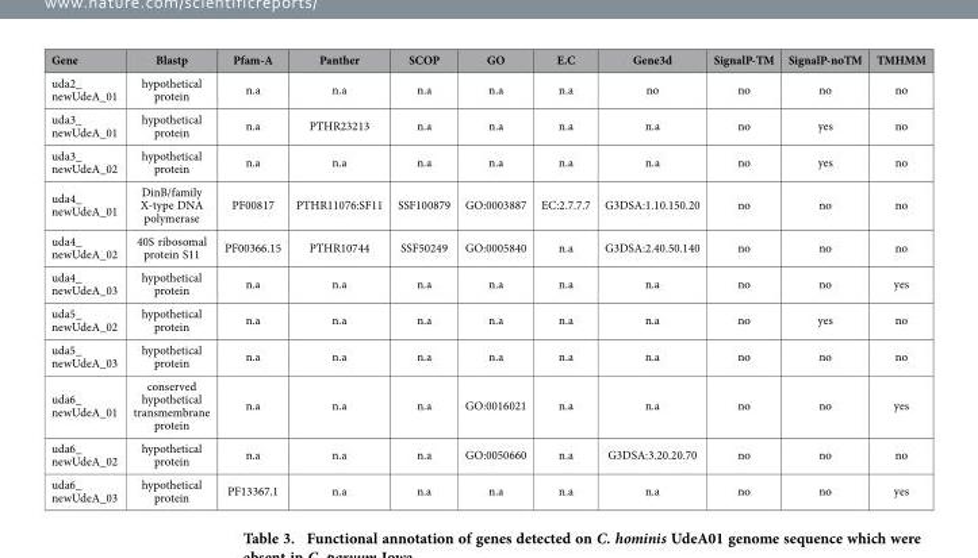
<table><thead><tr><td>Gene</td><td>Blastp</td><td>Pfam-A</td><td>Panther</td><td>SCOP</td><td>GO</td><td>E.C</td><td>Gene3d</td><td>SignalP-TM</td><td>SignalP-noTM</td><td>TMHMM</td></tr></thead><tbody><tr><td>uda2_ newUdeA_01</td><td>hypothetical protein</td><td>n.a</td><td>n.a</td><td>n.a</td><td>n.a</td><td>n.a</td><td>no</td><td>no</td><td>no</td><td>no</td></tr><tr><td>uda3_ newUdeA_01</td><td>hypothetical protein</td><td>n.a</td><td>PTHR23213</td><td>n.a</td><td>n.a</td><td>n.a</td><td>n.a</td><td>no</td><td>yes</td><td>no</td></tr><tr><td>uda3_ newUdeA_02</td><td>hypothetical protein</td><td>n.a</td><td>n.a</td><td>n.a</td><td>n.a</td><td>n.a</td><td>n.a</td><td>no</td><td>yes</td><td>no</td></tr><tr><td>uda4_ newUdeA_01</td><td>DinB/family X-type DNA polymerase</td><td>PF00817</td><td>PTHR11076:SF11</td><td>SSF100879</td><td>GO:0003887</td><td>EC:2.7.7.7</td><td>G3DSA:1.10.150.20</td><td>no</td><td>no</td><td>no</td></tr><tr><td>uda4_ newUdeA_02</td><td>40S ribosomal protein S11</td><td>PF00366.15</td><td>PTHR10744</td><td>SSF50249</td><td>GO:0005840</td><td>n.a</td><td>G3DSA:2.40.50.140</td><td>no</td><td>no</td><td>no</td></tr><tr><td>uda4_ newUdeA_03</td><td>hypothetical protein</td><td>n.a</td><td>n.a</td><td>n.a</td><td>n.a</td><td>n.a</td><td>n.a</td><td>no</td><td>no</td><td>yes</td></tr><tr><td>uda5_ newUdeA_02</td><td>hypothetical protein</td><td>n.a</td><td>n.a</td><td>n.a</td><td>n.a</td><td>n.a</td><td>n.a</td><td>no</td><td>yes</td><td>no</td></tr><tr><td>uda5_ newUdeA_03</td><td>hypothetical protein</td><td>n.a</td><td>n.a</td><td>n.a</td><td>n.a</td><td>n.a</td><td>n.a</td><td>no</td><td>no</td><td>no</td></tr><tr><td>uda6_ newUdeA_01</td><td>conserved hypothetical transmembrane protein</td><td>n.a</td><td>n.a</td><td>n.a</td><td>GO:0016021</td><td>n.a</td><td>n.a</td><td>no</td><td>no</td><td>yes</td></tr><tr><td>uda6_ newUdeA_02</td><td>hypothetical protein</td><td>n.a</td><td>n.a</td><td>n.a</td><td>GO:0050660</td><td>n.a</td><td>G3DSA:3.20.20.70</td><td>no</td><td>no</td><td>no</td></tr><tr><td>uda6_ newUdeA_03</td><td>hypothetical protein</td><td>PF13367.1</td><td>n.a</td><td>n.a</td><td>n.a</td><td>n.a</td><td>n.a</td><td>no</td><td>no</td><td>yes</td></tr></tbody></table>